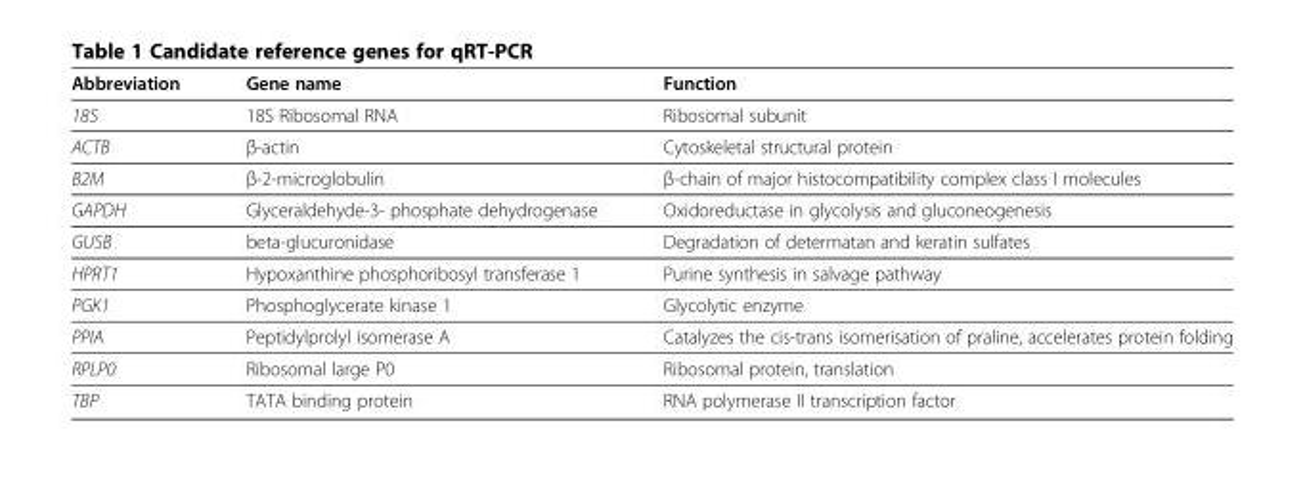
<table><thead><tr><td>Abbreviation</td><td>Gene name</td><td>Function</td></tr></thead><tbody><tr><td>18S</td><td>18S Ribosomal RNA</td><td>Ribosomal subunit</td></tr><tr><td>ACTB</td><td>β-actin</td><td>Cytoskeletal structural protein</td></tr><tr><td>B2M</td><td>β-2-microglobulin</td><td>β-chain of major histocompatibility complex class I molecules</td></tr><tr><td>GAPDH</td><td>Glyceraldehyde-3- phosphate dehydrogenase</td><td>Oxidoreductase in glycolysis and gluconeogenesis</td></tr><tr><td>GUSB</td><td>beta-glucuronidase</td><td>Degradation of determatan and keratin sulfates</td></tr><tr><td>HPRT1</td><td>Hypoxanthine phosphoribosyl transferase 1</td><td>Purine synthesis in salvage pathway</td></tr><tr><td>PGK1</td><td>Phosphoglycerate kinase 1</td><td>Glycolytic enzyme</td></tr><tr><td>PPIA</td><td>Peptidylprolyl isomerase A</td><td>Catalyzes the cis-trans isomerisation of praline, accelerates protein folding</td></tr><tr><td>RPLP0</td><td>Ribosomal large P0</td><td>Ribosomal protein, translation</td></tr><tr><td>TBP</td><td>TATA binding protein</td><td>RNA polymerase II transcription factor</td></tr></tbody></table>